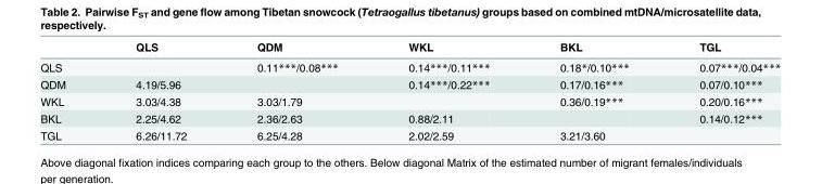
<table><thead><tr><td></td><td>QLS</td><td>QDM</td><td>WKL</td><td>BKL</td><td>TGL</td></tr></thead><tbody><tr><td>QLS</td><td></td><td>0.11***/0.08***</td><td>0.14***/0.11***</td><td>0.18*/0.10***</td><td>0.07***/0.04***</td></tr><tr><td>QDM</td><td>4.19/5.96</td><td></td><td>0.14***/0.22***</td><td>0.17/0.16***</td><td>0.07/0.10***</td></tr><tr><td>WKL</td><td>3.03/4.38</td><td>3.03/1.79</td><td></td><td>0.36/0.19***</td><td>0.20/0.16***</td></tr><tr><td>BKL</td><td>2.25/4.62</td><td>2.36/2.63</td><td>0.88/2.11</td><td></td><td>0.14/0.12***</td></tr><tr><td>TGL</td><td>6.26/11.72</td><td>6.25/4.28</td><td>2.02/2.59</td><td>3.21/3.60</td><td></td></tr></tbody></table>